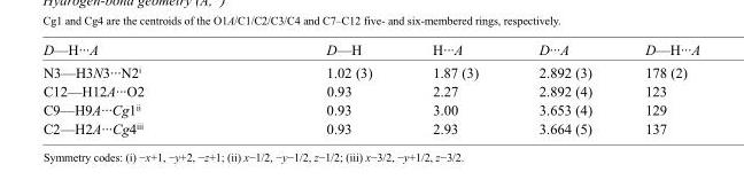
<table><tbody><tr><td>D—H···A</td><td>D—H</td><td>H···A</td><td>D···A</td><td>D—H···A</td></tr><tr><td>N3—H3N3···N2<sup>i</sup></td><td>1.02 (3)</td><td>1.87 (3)</td><td>2.892 (3)</td><td>178 (2)</td></tr><tr><td>C12—H12A···O2</td><td>0.93</td><td>2.27</td><td>2.892 (4)</td><td>123</td></tr><tr><td>C9—H9A···Cg1<sup>ii</sup></td><td>0.93</td><td>3.00</td><td>3.653 (4)</td><td>129</td></tr><tr><td>C2—H2A···Cg4<sup>iii</sup></td><td>0.93</td><td>2.93</td><td>3.664 (5)</td><td>137</td></tr></tbody></table>